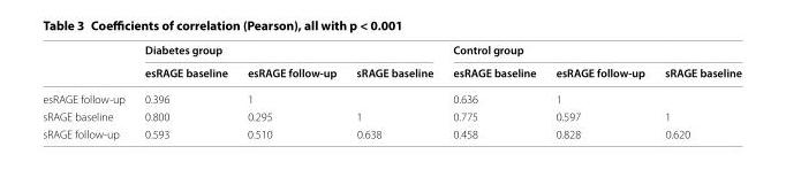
<table><thead><tr><td rowspan="2"></td><td colspan="3">Diabetes group</td><td colspan="3">Control group</td></tr><tr><td>esRAGE baseline</td><td>esRAGE follow-up</td><td>sRAGE baseline</td><td>esRAGE baseline</td><td>esRAGE follow-up</td><td>sRAGE baseline</td></tr></thead><tbody><tr><td>esRAGE follow‑up</td><td>0.396</td><td>1</td><td></td><td>0.636</td><td>1</td><td></td></tr><tr><td>sRAGE baseline</td><td>0.800</td><td>0.295</td><td>1</td><td>0.775</td><td>0.597</td><td>1</td></tr><tr><td>sRAGE follow‑up</td><td>0.593</td><td>0.510</td><td>0.638</td><td>0.458</td><td>0.828</td><td>0.620</td></tr></tbody></table>